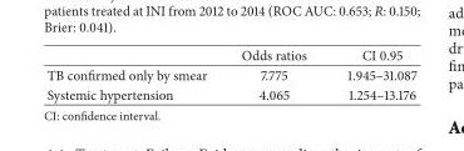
<table><thead><tr><td></td><td>Odds ratios</td><td>CI 0.95</td></tr></thead><tbody><tr><td>TB confirmed only by smear</td><td>7.775</td><td>1.945–31.087</td></tr><tr><td>Systemic hypertension</td><td>4.065</td><td>1.254–13.176</td></tr></tbody></table>